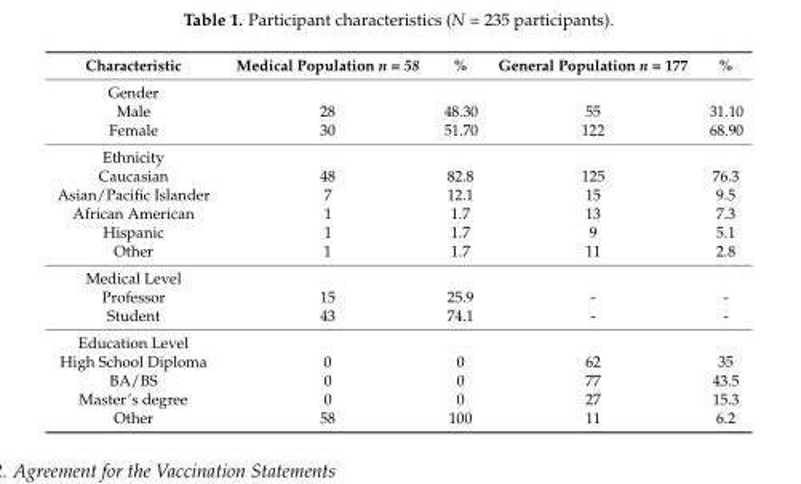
<table><thead><tr><td>Characteristic</td><td>Medical Population n = 58</td><td>%</td><td>General Population n = 177</td><td>%</td></tr></thead><tbody><tr><td colspan="5">Gender</td></tr><tr><td>Male</td><td>28</td><td>48.30</td><td>55</td><td>31.10</td></tr><tr><td>Female</td><td>30</td><td>51.70</td><td>122</td><td>68.90</td></tr><tr><td colspan="5">Ethnicity</td></tr><tr><td>Caucasian</td><td>48</td><td>82.8</td><td>125</td><td>76.3</td></tr><tr><td>Asian/Pacific Islander</td><td>7</td><td>12.1</td><td>15</td><td>9.5</td></tr><tr><td>African American</td><td>1</td><td>1.7</td><td>13</td><td>7.3</td></tr><tr><td>Hispanic</td><td>1</td><td>1.7</td><td>9</td><td>5.1</td></tr><tr><td>Other</td><td>1</td><td>1.7</td><td>11</td><td>2.8</td></tr><tr><td colspan="5">Medical Level</td></tr><tr><td>Professor</td><td>15</td><td>25.9</td><td>-</td><td>-</td></tr><tr><td>Student</td><td>43</td><td>74.1</td><td>-</td><td>-</td></tr><tr><td colspan="5">Education Level</td></tr><tr><td>High School Diploma</td><td>0</td><td>0</td><td>62</td><td>35</td></tr><tr><td>BA/BS</td><td>0</td><td>0</td><td>77</td><td>43.5</td></tr><tr><td>Master’s degree</td><td>0</td><td>0</td><td>27</td><td>15.3</td></tr><tr><td>Other</td><td>58</td><td>100</td><td>11</td><td>6.2</td></tr></tbody></table>